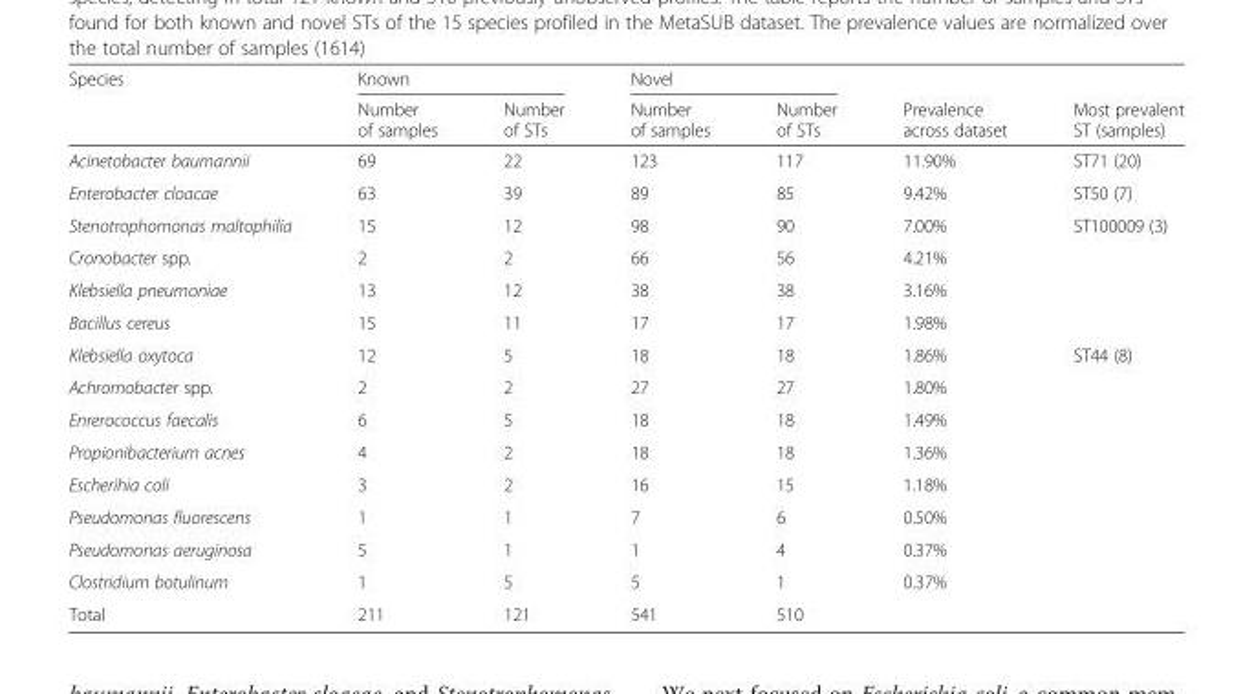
<table><thead><tr><td rowspan="2">Species</td><td colspan="2">Known</td><td colspan="2">Novel</td><td rowspan="2">Prevalence across dataset</td><td rowspan="2">Most prevalent ST (samples)</td></tr><tr><td>Number of samples</td><td>Number of STs</td><td>Number of samples</td><td>Number of STs</td></tr></thead><tbody><tr><td>Acinetobacter baumannii</td><td>69</td><td>22</td><td>123</td><td>117</td><td>11.90%</td><td>ST71 (20)</td></tr><tr><td>Enterobacter cloacae</td><td>63</td><td>39</td><td>89</td><td>85</td><td>9.42%</td><td>ST50 (7)</td></tr><tr><td>Stenotrophomonas maltophilia</td><td>15</td><td>12</td><td>98</td><td>90</td><td>7.00%</td><td>ST100009 (3)</td></tr><tr><td>Cronobacter spp.</td><td>2</td><td>2</td><td>66</td><td>56</td><td>4.21%</td><td></td></tr><tr><td>Klebsiella pneumoniae</td><td>13</td><td>12</td><td>38</td><td>38</td><td>3.16%</td><td></td></tr><tr><td>Bacillus cereus</td><td>15</td><td>11</td><td>17</td><td>17</td><td>1.98%</td><td></td></tr><tr><td>Klebsiella oxytoca</td><td>12</td><td>5</td><td>18</td><td>18</td><td>1.86%</td><td>ST44 (8)</td></tr><tr><td>Achromobacter spp.</td><td>2</td><td>2</td><td>27</td><td>27</td><td>1.80%</td><td></td></tr><tr><td>Enrerococcus faecalis</td><td>6</td><td>5</td><td>18</td><td>18</td><td>1.49%</td><td></td></tr><tr><td>Propionibacterium acnes</td><td>4</td><td>2</td><td>18</td><td>18</td><td>1.36%</td><td></td></tr><tr><td>Escherihia coli</td><td>3</td><td>2</td><td>16</td><td>15</td><td>1.18%</td><td></td></tr><tr><td>Pseudomonas fluorescens</td><td>1</td><td>1</td><td>7</td><td>6</td><td>0.50%</td><td></td></tr><tr><td>Pseudomonas aeruginosa</td><td>5</td><td>1</td><td>1</td><td>4</td><td>0.37%</td><td></td></tr><tr><td>Clostridium botulinum</td><td>1</td><td>5</td><td>5</td><td>1</td><td>0.37%</td><td></td></tr><tr><td>Total</td><td>211</td><td>121</td><td>541</td><td>510</td><td></td><td></td></tr></tbody></table>